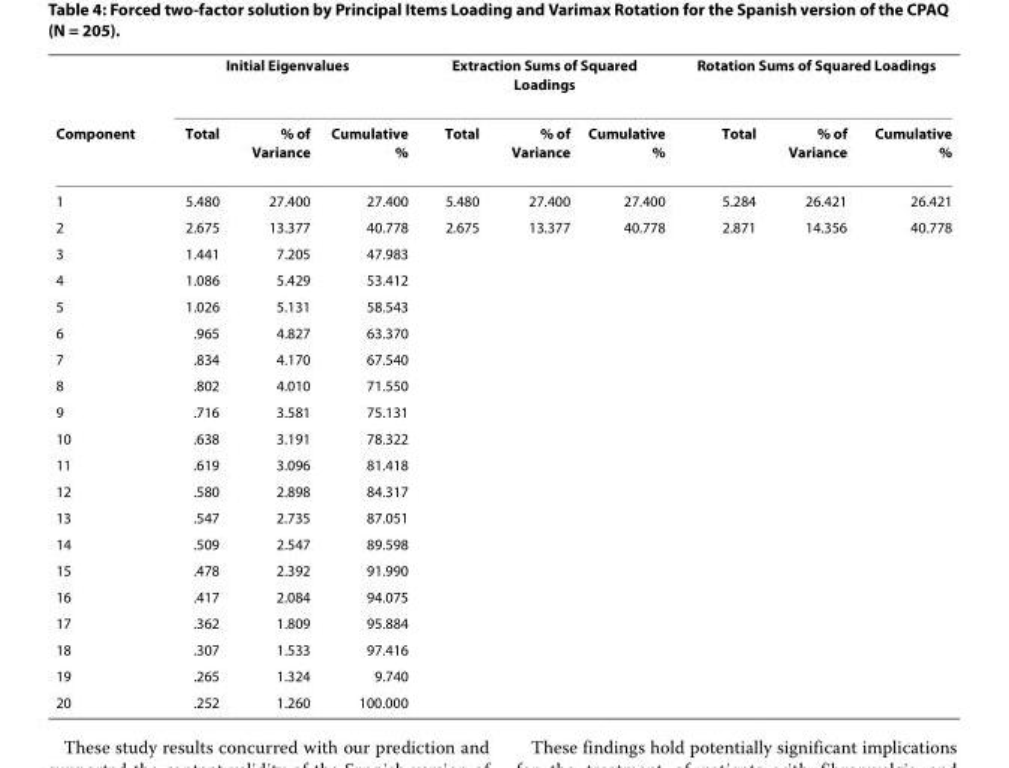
<table><thead><tr><td rowspan="2">Component</td><td colspan="3">Initial Eigenvalues</td><td colspan="3">Extraction Sums of Squared Loadings</td><td colspan="3">Rotation Sums of Squared Loadings</td></tr><tr><td>Total</td><td>% of Variance</td><td>Cumulative %</td><td>Total</td><td>% of Variance</td><td>Cumulative %</td><td>Total</td><td>% of Variance</td><td>Cumulative %</td></tr></thead><tbody><tr><td>1</td><td>5.480</td><td>27.400</td><td>27.400</td><td>5.480</td><td>27.400</td><td>27.400</td><td>5.284</td><td>26.421</td><td>26.421</td></tr><tr><td>2</td><td>2.675</td><td>13.377</td><td>40.778</td><td>2.675</td><td>13.377</td><td>40.778</td><td>2.871</td><td>14.356</td><td>40.778</td></tr><tr><td>3</td><td>1.441</td><td>7.205</td><td>47.983</td><td></td><td></td><td></td><td></td><td></td><td></td></tr><tr><td>4</td><td>1.086</td><td>5.429</td><td>53.412</td><td></td><td></td><td></td><td></td><td></td><td></td></tr><tr><td>5</td><td>1.026</td><td>5.131</td><td>58.543</td><td></td><td></td><td></td><td></td><td></td><td></td></tr><tr><td>6</td><td>.965</td><td>4.827</td><td>63.370</td><td></td><td></td><td></td><td></td><td></td><td></td></tr><tr><td>7</td><td>.834</td><td>4.170</td><td>67.540</td><td></td><td></td><td></td><td></td><td></td><td></td></tr><tr><td>8</td><td>.802</td><td>4.010</td><td>71.550</td><td></td><td></td><td></td><td></td><td></td><td></td></tr><tr><td>9</td><td>.716</td><td>3.581</td><td>75.131</td><td></td><td></td><td></td><td></td><td></td><td></td></tr><tr><td>10</td><td>.638</td><td>3.191</td><td>78.322</td><td></td><td></td><td></td><td></td><td></td><td></td></tr><tr><td>11</td><td>.619</td><td>3.096</td><td>81.418</td><td></td><td></td><td></td><td></td><td></td><td></td></tr><tr><td>12</td><td>.580</td><td>2.898</td><td>84.317</td><td></td><td></td><td></td><td></td><td></td><td></td></tr><tr><td>13</td><td>.547</td><td>2.735</td><td>87.051</td><td></td><td></td><td></td><td></td><td></td><td></td></tr><tr><td>14</td><td>.509</td><td>2.547</td><td>89.598</td><td></td><td></td><td></td><td></td><td></td><td></td></tr><tr><td>15</td><td>.478</td><td>2.392</td><td>91.990</td><td></td><td></td><td></td><td></td><td></td><td></td></tr><tr><td>16</td><td>.417</td><td>2.084</td><td>94.075</td><td></td><td></td><td></td><td></td><td></td><td></td></tr><tr><td>17</td><td>.362</td><td>1.809</td><td>95.884</td><td></td><td></td><td></td><td></td><td></td><td></td></tr><tr><td>18</td><td>.307</td><td>1.533</td><td>97.416</td><td></td><td></td><td></td><td></td><td></td><td></td></tr><tr><td>19</td><td>.265</td><td>1.324</td><td>9.740</td><td></td><td></td><td></td><td></td><td></td><td></td></tr><tr><td>20</td><td>.252</td><td>1.260</td><td>100.000</td><td></td><td></td><td></td><td></td><td></td><td></td></tr></tbody></table>